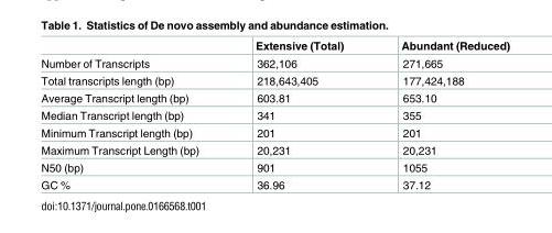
<table><thead><tr><td></td><td>Extensive (Total)</td><td>Abundant (Reduced)</td></tr></thead><tbody><tr><td>Number of Transcripts</td><td>362,106</td><td>271,665</td></tr><tr><td>Total transcripts length (bp)</td><td>218,643,405</td><td>177,424,188</td></tr><tr><td>Average Transcript length (bp)</td><td>603.81</td><td>653.10</td></tr><tr><td>Median Transcript length (bp)</td><td>341</td><td>355</td></tr><tr><td>Minimum Transcript length (bp)</td><td>201</td><td>201</td></tr><tr><td>Maximum Transcript Length (bp)</td><td>20,231</td><td>20,231</td></tr><tr><td>N50 (bp)</td><td>901</td><td>1055</td></tr><tr><td>GC %</td><td>36.96</td><td>37.12</td></tr></tbody></table>